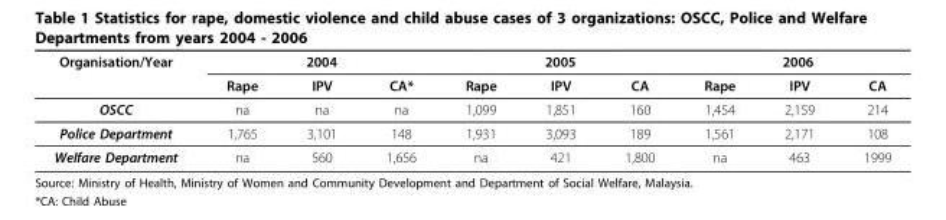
<table><thead><tr><td rowspan="2">Organisation/Year</td><td colspan="3">2004</td><td colspan="3">2005</td><td colspan="3">2006</td></tr><tr><td>Rape</td><td>IPV</td><td>CA*</td><td>Rape</td><td>IPV</td><td>CA</td><td>Rape</td><td>IPV</td><td>CA</td></tr></thead><tbody><tr><td>OSCC</td><td>na</td><td>na</td><td>na</td><td>1,099</td><td>1,851</td><td>160</td><td>1,454</td><td>2,159</td><td>214</td></tr><tr><td>Police Department</td><td>1,765</td><td>3,101</td><td>148</td><td>1,931</td><td>3,093</td><td>189</td><td>1,561</td><td>2,171</td><td>108</td></tr><tr><td>Welfare Department</td><td>na</td><td>560</td><td>1,656</td><td>na</td><td>421</td><td>1,800</td><td>na</td><td>463</td><td>1999</td></tr></tbody></table>